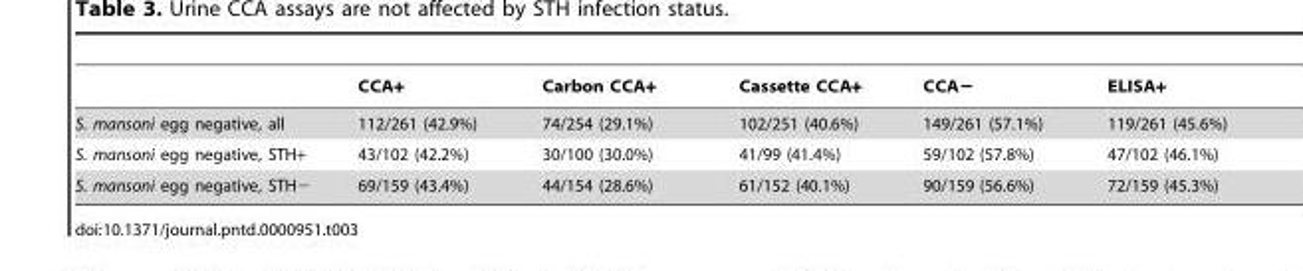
<table><thead><tr><td></td><td>CCA+</td><td>Carbon CCA+</td><td>Cassette CCA+</td><td>CCA−</td><td>ELISA+</td></tr></thead><tbody><tr><td>S. mansoni egg negative, all</td><td>112/261 (42.9%)</td><td>74/254 (29.1%)</td><td>102/251 (40.6%)</td><td>149/261 (57.1%)</td><td>119/261 (45.6%)</td></tr><tr><td>S. mansoni egg negative, STH+</td><td>43/102 (42.2%)</td><td>30/100 (30.0%)</td><td>41/99 (41.4%)</td><td>59/102 (57.8%)</td><td>47/102 (46.1%)</td></tr><tr><td>S. mansoni egg negative, STH−</td><td>69/159 (43.4%)</td><td>44/154 (28.6%)</td><td>61/152 (40.1%)</td><td>90/159 (56.6%)</td><td>72/159 (45.3%)</td></tr></tbody></table>